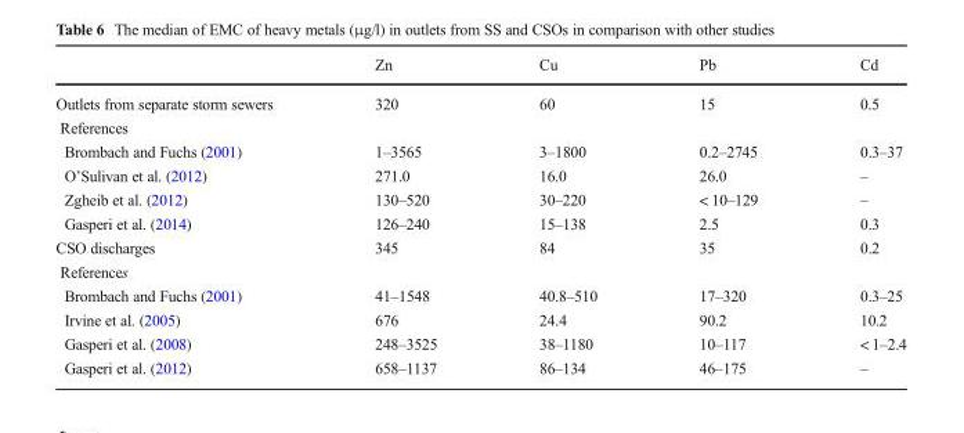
<table><thead><tr><td></td><td>Zn</td><td>Cu</td><td>Pb</td><td>Cd</td></tr></thead><tbody><tr><td>Outlets from separate storm sewers</td><td>320</td><td>60</td><td>15</td><td>0.5</td></tr><tr><td colspan="5">References</td></tr><tr><td>Brombach and Fuchs (2001)</td><td>1–3565</td><td>3–1800</td><td>0.2–2745</td><td>0.3–37</td></tr><tr><td>O’Sulivan et al. (2012)</td><td>271.0</td><td>16.0</td><td>26.0</td><td>–</td></tr><tr><td>Zgheib et al. (2012)</td><td>130–520</td><td>30–220</td><td>&lt; 10–129</td><td>–</td></tr><tr><td>Gasperi et al. (2014)</td><td>126–240</td><td>15–138</td><td>2.5</td><td>0.3</td></tr><tr><td>CSO discharges</td><td>345</td><td>84</td><td>35</td><td>0.2</td></tr><tr><td colspan="5">References</td></tr><tr><td>Brombach and Fuchs (2001)</td><td>41–1548</td><td>40.8–510</td><td>17–320</td><td>0.3–25</td></tr><tr><td>Irvine et al. (2005)</td><td>676</td><td>24.4</td><td>90.2</td><td>10.2</td></tr><tr><td>Gasperi et al. (2008)</td><td>248–3525</td><td>38–1180</td><td>10–117</td><td>&lt; 1–2.4</td></tr><tr><td>Gasperi et al. (2012)</td><td>658–1137</td><td>86–134</td><td>46–175</td><td>–</td></tr></tbody></table>